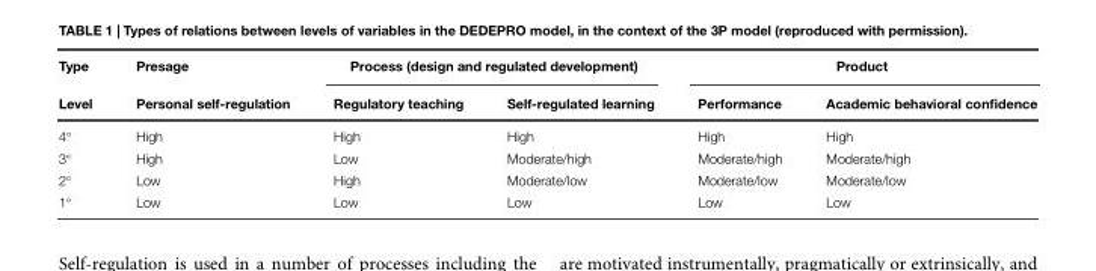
<table><thead><tr><td rowspan="2">Type Level</td><td rowspan="2">Presage Personal self-regulation</td><td colspan="2">Process (design and regulated development)</td><td colspan="2">Product</td></tr><tr><td>Regulatory teaching</td><td>Self-regulated learning</td><td>Performance</td><td>Academic behavioral confidence</td></tr></thead><tbody><tr><td>4◦</td><td>High</td><td>High</td><td>High</td><td>High</td><td>High</td></tr><tr><td>3◦</td><td>High</td><td>Low</td><td>Moderate/high</td><td>Moderate/high</td><td>Moderate/high</td></tr><tr><td>2◦</td><td>Low</td><td>High</td><td>Moderate/low</td><td>Moderate/low</td><td>Moderate/low</td></tr><tr><td>1◦</td><td>Low</td><td>Low</td><td>Low</td><td>Low</td><td>Low</td></tr></tbody></table>